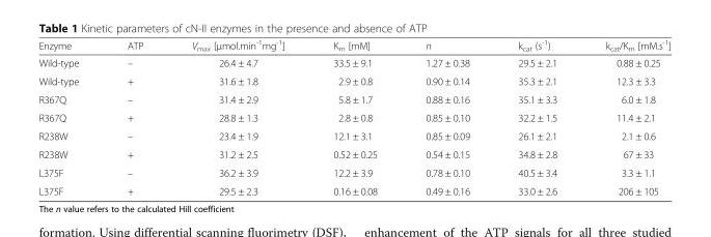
<table><thead><tr><td>Enzyme</td><td>ATP</td><td>V<sub>max</sub> [μmol.min<sup>-1</sup>mg<sup>-1</sup>]</td><td>K<sub>m</sub> [mM]</td><td>n</td><td>k<sub>cat</sub> (s<sup>-1</sup>)</td><td>k<sub>cat</sub>/K<sub>m</sub> [mM.s<sup>-1</sup>]</td></tr></thead><tbody><tr><td>Wild-type</td><td>–</td><td>26.4 ± 4.7</td><td>33.5 ± 9.1</td><td>1.27 ± 0.38</td><td>29.5 ± 2.1</td><td>0.88 ± 0.25</td></tr><tr><td>Wild-type</td><td>+</td><td>31.6 ± 1.8</td><td>2.9 ± 0.8</td><td>0.90 ± 0.14</td><td>35.3 ± 2.1</td><td>12.3 ± 3.3</td></tr><tr><td>R367Q</td><td>–</td><td>31.4 ± 2.9</td><td>5.8 ± 1.7</td><td>0.88 ± 0.16</td><td>35.1 ± 3.3</td><td>6.0 ± 1.8</td></tr><tr><td>R367Q</td><td>+</td><td>28.8 ± 1.3</td><td>2.8 ± 0.8</td><td>0.85 ± 0.10</td><td>32.2 ± 1.5</td><td>11.4 ± 2.1</td></tr><tr><td>R238W</td><td>–</td><td>23.4 ± 1.9</td><td>12.1 ± 3.1</td><td>0.85 ± 0.09</td><td>26.1 ± 2.1</td><td>2.1 ± 0.6</td></tr><tr><td>R238W</td><td>+</td><td>31.2 ± 2.5</td><td>0.52 ± 0.25</td><td>0.54 ± 0.15</td><td>34.8 ± 2.8</td><td>67 ± 33</td></tr><tr><td>L375F</td><td>–</td><td>36.2 ± 3.9</td><td>12.2 ± 3.9</td><td>0.78 ± 0.10</td><td>40.5 ± 3.4</td><td>3.3 ± 1.1</td></tr><tr><td>L375F</td><td>+</td><td>29.5 ± 2.3</td><td>0.16 ± 0.08</td><td>0.49 ± 0.16</td><td>33.0 ± 2.6</td><td>206 ± 105</td></tr></tbody></table>